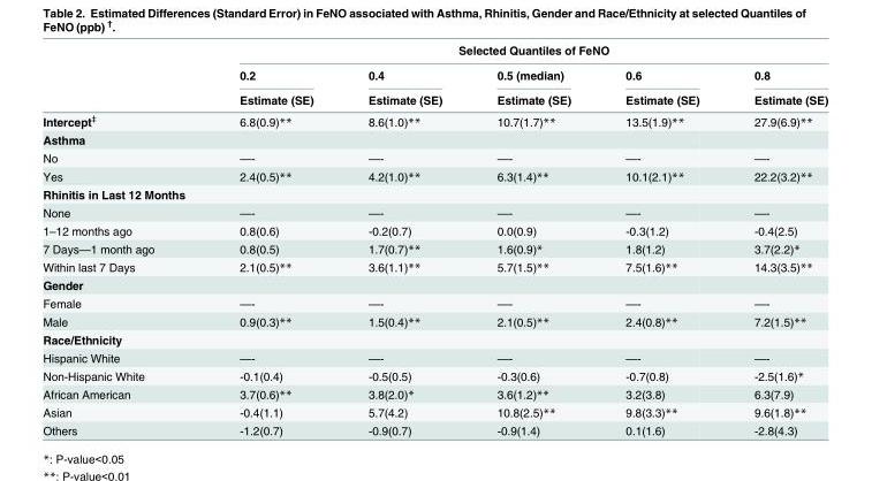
<table><thead><tr><td rowspan="3"></td><td colspan="5">Selected Quantiles of FeNO</td></tr><tr><td rowspan="2">0.2 Estimate (SE)</td><td rowspan="2">0.4 Estimate (SE)</td><td rowspan="2">0.5 (median) Estimate (SE)</td><td rowspan="2">0.6 Estimate (SE)</td><td rowspan="2">0.8 Estimate (SE)</td></tr><tr></tr></thead><tbody><tr><td>Intercept<sup>‡</sup></td><td>6.8(0.9)**</td><td>8.6(1.0)**</td><td>10.7(1.7)**</td><td>13.5(1.9)**</td><td>27.9(6.9)**</td></tr><tr><td colspan="6">Asthma</td></tr><tr><td>No</td><td>—-</td><td>—-</td><td>—-</td><td>—-</td><td>—-</td></tr><tr><td>Yes</td><td>2.4(0.5)**</td><td>4.2(1.0)**</td><td>6.3(1.4)**</td><td>10.1(2.1)**</td><td>22.2(3.2)**</td></tr><tr><td colspan="6">Rhinitis in Last 12 Months</td></tr><tr><td>None</td><td>—-</td><td>—-</td><td>—-</td><td>—-</td><td>—-</td></tr><tr><td>1–12 months ago</td><td>0.8(0.6)</td><td>-0.2(0.7)</td><td>0.0(0.9)</td><td>-0.3(1.2)</td><td>-0.4(2.5)</td></tr><tr><td>7 Days—1 month ago</td><td>0.8(0.5)</td><td>1.7(0.7)**</td><td>1.6(0.9)*</td><td>1.8(1.2)</td><td>3.7(2.2)*</td></tr><tr><td>Within last 7 Days</td><td>2.1(0.5)**</td><td>3.6(1.1)**</td><td>5.7(1.5)**</td><td>7.5(1.6)**</td><td>14.3(3.5)**</td></tr><tr><td colspan="6">Gender</td></tr><tr><td>Female</td><td>—-</td><td>—-</td><td>—-</td><td>—-</td><td>—-</td></tr><tr><td>Male</td><td>0.9(0.3)**</td><td>1.5(0.4)**</td><td>2.1(0.5)**</td><td>2.4(0.8)**</td><td>7.2(1.5)**</td></tr><tr><td colspan="6">Race/Ethnicity</td></tr><tr><td>Hispanic White</td><td>—-</td><td>—-</td><td>—-</td><td>—-</td><td>—-</td></tr><tr><td>Non-Hispanic White</td><td>-0.1(0.4)</td><td>-0.5(0.5)</td><td>-0.3(0.6)</td><td>-0.7(0.8)</td><td>-2.5(1.6)*</td></tr><tr><td>African American</td><td>3.7(0.6)**</td><td>3.8(2.0)*</td><td>3.6(1.2)**</td><td>3.2(3.8)</td><td>6.3(7.9)</td></tr><tr><td>Asian</td><td>-0.4(1.1)</td><td>5.7(4.2)</td><td>10.8(2.5)**</td><td>9.8(3.3)**</td><td>9.6(1.8)**</td></tr><tr><td>Others</td><td>-1.2(0.7)</td><td>-0.9(0.7)</td><td>-0.9(1.4)</td><td>0.1(1.6)</td><td>-2.8(4.3)</td></tr></tbody></table>